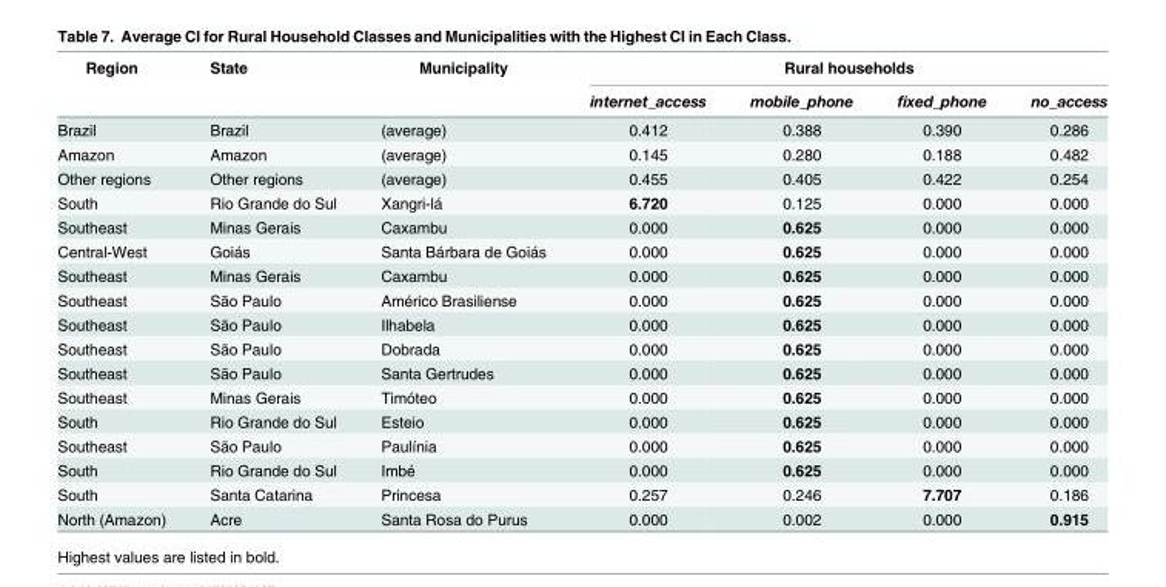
<table><thead><tr><td rowspan="2">Region</td><td rowspan="2">State</td><td rowspan="2">Municipality</td><td colspan="4">Rural households</td></tr><tr><td>internet_access</td><td>mobile_phone</td><td>fixed_phone</td><td>no_access</td></tr></thead><tbody><tr><td>Brazil</td><td>Brazil</td><td>(average)</td><td>0.412</td><td>0.388</td><td>0.390</td><td>0.286</td></tr><tr><td>Amazon</td><td>Amazon</td><td>(average)</td><td>0.145</td><td>0.280</td><td>0.188</td><td>0.482</td></tr><tr><td>Other regions</td><td>Other regions</td><td>(average)</td><td>0.455</td><td>0.405</td><td>0.422</td><td>0.254</td></tr><tr><td>South</td><td>Rio Grande do Sul</td><td>Xangri-lá</td><td>6.720</td><td>0.125</td><td>0.000</td><td>0.000</td></tr><tr><td>Southeast</td><td>Minas Gerais</td><td>Caxambu</td><td>0.000</td><td>0.625</td><td>0.000</td><td>0.000</td></tr><tr><td>Central-West</td><td>Goiás</td><td>Santa Bárbara de Goiás</td><td>0.000</td><td>0.625</td><td>0.000</td><td>0.000</td></tr><tr><td>Southeast</td><td>Minas Gerais</td><td>Caxambu</td><td>0.000</td><td>0.625</td><td>0.000</td><td>0.000</td></tr><tr><td>Southeast</td><td>São Paulo</td><td>Américo Brasiliense</td><td>0.000</td><td>0.625</td><td>0.000</td><td>0.000</td></tr><tr><td>Southeast</td><td>São Paulo</td><td>Ilhabela</td><td>0.000</td><td>0.625</td><td>0.000</td><td>0.000</td></tr><tr><td>Southeast</td><td>São Paulo</td><td>Dobrada</td><td>0.000</td><td>0.625</td><td>0.000</td><td>0.000</td></tr><tr><td>Southeast</td><td>São Paulo</td><td>Santa Gertrudes</td><td>0.000</td><td>0.625</td><td>0.000</td><td>0.000</td></tr><tr><td>Southeast</td><td>Minas Gerais</td><td>Timóteo</td><td>0.000</td><td>0.625</td><td>0.000</td><td>0.000</td></tr><tr><td>South</td><td>Rio Grande do Sul</td><td>Esteio</td><td>0.000</td><td>0.625</td><td>0.000</td><td>0.000</td></tr><tr><td>Southeast</td><td>São Paulo</td><td>Paulínia</td><td>0.000</td><td>0.625</td><td>0.000</td><td>0.000</td></tr><tr><td>South</td><td>Rio Grande do Sul</td><td>Imbé</td><td>0.000</td><td>0.625</td><td>0.000</td><td>0.000</td></tr><tr><td>South</td><td>Santa Catarina</td><td>Princesa</td><td>0.257</td><td>0.246</td><td>7.707</td><td>0.186</td></tr><tr><td>North (Amazon)</td><td>Acre</td><td>Santa Rosa do Purus</td><td>0.000</td><td>0.002</td><td>0.000</td><td>0.915</td></tr></tbody></table>